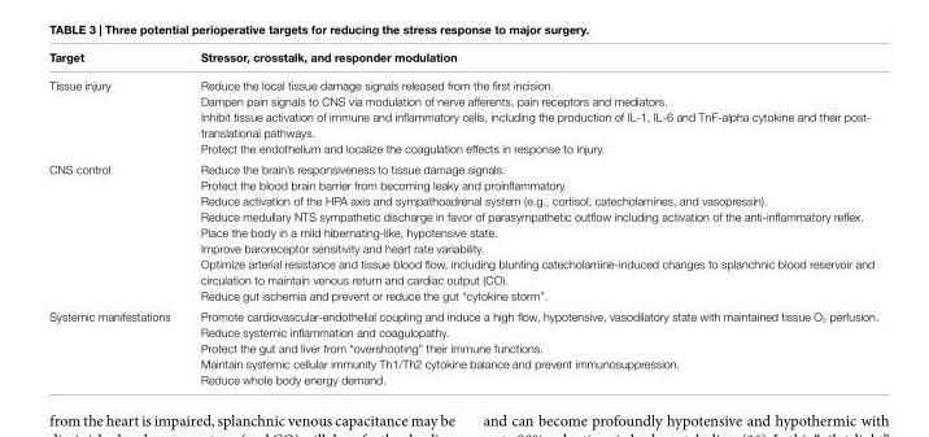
<table><thead><tr><td>Target</td><td>Stressor, crosstalk, and responder modulation</td></tr></thead><tbody><tr><td>Tissue injury</td><td>Reduce the local tissue damage signals released from the first incision. Dampen pain signals to CNS via modulation of nerve afferents, pain receptors and mediators. Inhibit tissue activation of immune and inflammatory cells, including the production of IL-1, IL-6 and TnF-alpha cytokine and their post- translational pathways. Protect the endothelium and localize the coagulation effects in response to injury.</td></tr><tr><td>CNS control</td><td>Reduce the brain’s responsiveness to tissue damage signals. Protect the blood brain barrier from becoming leaky and proinflammatory. Reduce activation of the HPA axis and sympathoadrenal system (e.g., cortisol, catecholamines, and vasopressin). Reduce medullary NTS sympathetic discharge in favor of parasympathetic outflow including activation of the anti-inflammatory reflex. Place the body in a mild hibernating-like, hypotensive state. Improve baroreceptor sensitivity and heart rate variability. Optimize arterial resistance and tissue blood flow, including blunting catecholamine-induced changes to splanchnic blood reservoir and circulation to maintain venous return and cardiac output (CO). Reduce gut ischemia and prevent or reduce the gut “cytokine storm”.</td></tr><tr><td>Systemic manifestations</td><td>Promote cardiovascular-endothelial coupling and induce a high flow, hypotensive, vasodilatory state with maintained tissue O<sub>2</sub> perfusion. Reduce systemic inflammation and coagulopathy. Protect the gut and liver from “overshooting” their immune functions. Maintain systemic cellular immunity Th1/Th2 cytokine balance and prevent immunosuppression. Reduce whole body energy demand.</td></tr></tbody></table>